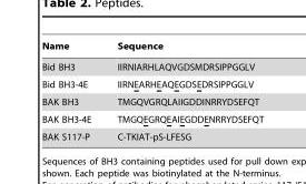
<table><thead><tr><td>Name</td><td>Sequence</td></tr></thead><tbody><tr><td>Bid BH3</td><td>IIRNIARHLAQVGDSMDRSIPPGGLV</td></tr><tr><td>Bid BH3-4E</td><td>IIRNEARHEAQEGDSEDRSIPPGGLV</td></tr><tr><td>BAK BH3</td><td>TMGQVGRQLAIIGDDINRRYDSEFQT</td></tr><tr><td>BAK BH3-4E</td><td>TMGQEGRQEAIEGDDENRRYDSEFQT</td></tr><tr><td>BAK S117-P</td><td>C-TKIAT-pS-LFESG</td></tr></tbody></table>